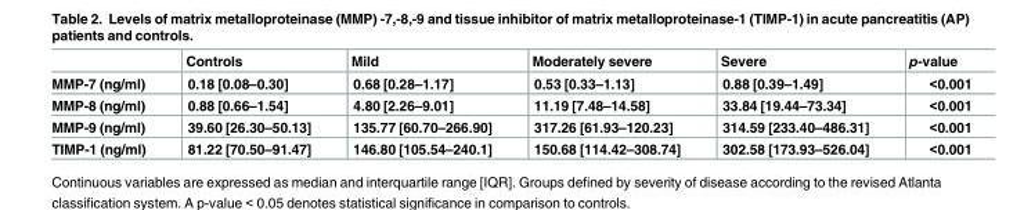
<table><thead><tr><td></td><td>Controls</td><td>Mild</td><td>Moderately severe</td><td>Severe</td><td>p-value</td></tr></thead><tbody><tr><td>MMP-7 (ng/ml)</td><td>0.18 [0.08–0.30]</td><td>0.68 [0.28–1.17]</td><td>0.53 [0.33–1.13]</td><td>0.88 [0.39–1.49]</td><td>&lt;0.001</td></tr><tr><td>MMP-8 (ng/ml)</td><td>0.88 [0.66–1.54]</td><td>4.80 [2.26–9.01]</td><td>11.19 [7.48–14.58]</td><td>33.84 [19.44–73.34]</td><td>&lt;0.001</td></tr><tr><td>MMP-9 (ng/ml)</td><td>39.60 [26.30–50.13]</td><td>135.77 [60.70–266.90]</td><td>317.26 [61.93–120.23]</td><td>314.59 [233.40–486.31]</td><td>&lt;0.001</td></tr><tr><td>TIMP-1 (ng/ml)</td><td>81.22 [70.50–91.47]</td><td>146.80 [105.54–240.1]</td><td>150.68 [114.42–308.74]</td><td>302.58 [173.93–526.04]</td><td>&lt;0.001</td></tr></tbody></table>